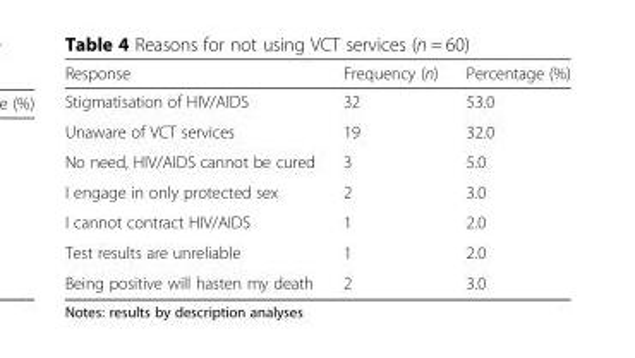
<table><thead><tr><td>Response</td><td>Frequency (n)</td><td>Percentage (%)</td></tr></thead><tbody><tr><td>Stigmatisation of HIV/AIDS</td><td>32</td><td>53.0</td></tr><tr><td>Unaware of VCT services</td><td>19</td><td>32.0</td></tr><tr><td>No need, HIV/AIDS cannot be cured</td><td>3</td><td>5.0</td></tr><tr><td>I engage in only protected sex</td><td>2</td><td>3.0</td></tr><tr><td>I cannot contract HIV/AIDS</td><td>1</td><td>2.0</td></tr><tr><td>Test results are unreliable</td><td>1</td><td>2.0</td></tr><tr><td>Being positive will hasten my death</td><td>2</td><td>3.0</td></tr></tbody></table>